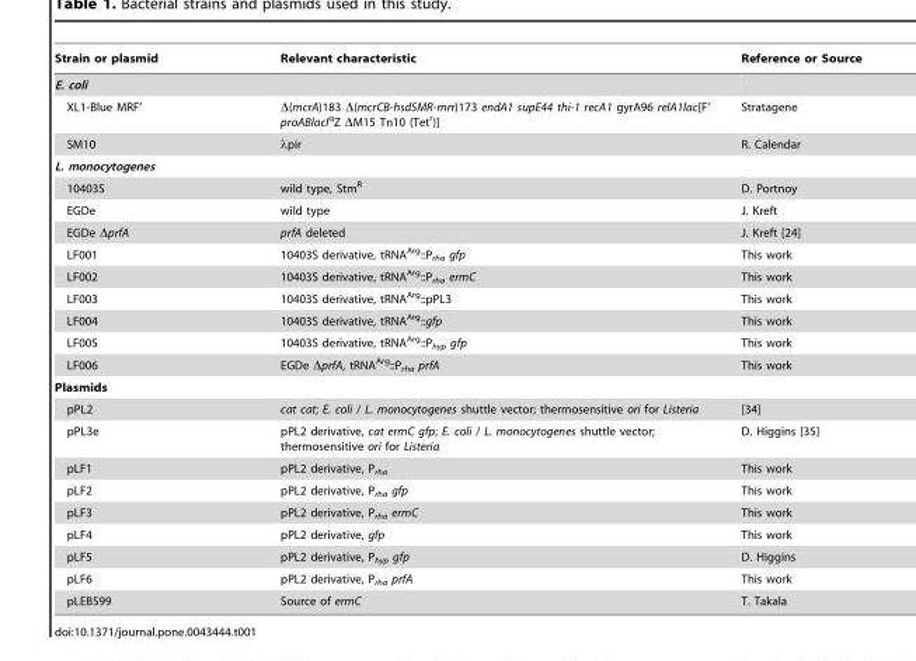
<table><thead><tr><td>Strain or plasmid</td><td>Relevant characteristic</td><td>Reference or Source</td></tr></thead><tbody><tr><td colspan="3">E. coli</td></tr><tr><td>XL1-Blue MRF’</td><td>Δ(mcrA)183 Δ(mcrCB-hsdSMR-mrr)173 endA1 supE44 thi-1 recA1 gyrA96 relA1lac[F′ proABlacI<sup>q</sup>Z ΔM15 Tn10 (Tet<sup>r</sup>)]</td><td>Stratagene</td></tr><tr><td>SM10</td><td>λpir</td><td>R. Calendar</td></tr><tr><td colspan="3">L. monocytogenes</td></tr><tr><td>10403S</td><td>wild type, Stm<sup>R</sup></td><td>D. Portnoy</td></tr><tr><td>EGDe</td><td>wild type</td><td>J. Kreft</td></tr><tr><td>EGDe ΔprfA</td><td>prfA deleted</td><td>J. Kreft [24]</td></tr><tr><td>LF001</td><td>10403S derivative, tRNA<sup>Arg</sup>::P<sub>rha</sub> gfp</td><td>This work</td></tr><tr><td>LF002</td><td>10403S derivative, tRNA<sup>Arg</sup>::P<sub>rha</sub> ermC</td><td>This work</td></tr><tr><td>LF003</td><td>10403S derivative, tRNA<sup>Arg</sup>::pPL3</td><td>This work</td></tr><tr><td>LF004</td><td>10403S derivative, tRNA<sup>Arg</sup>::gfp</td><td>This work</td></tr><tr><td>LF005</td><td>10403S derivative, tRNA<sup>Arg</sup>::P<sub>hyp</sub> gfp</td><td>This work</td></tr><tr><td>LF006</td><td>EGDe ΔprfA, tRNA<sup>Arg</sup>::P<sub>rha</sub> prfA</td><td>This work</td></tr><tr><td colspan="3">Plasmids</td></tr><tr><td>pPL2</td><td>cat cat; E. coli / L. monocytogenes shuttle vector; thermosensitive ori for Listeria</td><td>[34]</td></tr><tr><td>pPL3e</td><td>pPL2 derivative, cat ermC gfp; E. coli / L. monocytogenes shuttle vector; thermosensitive ori for Listeria</td><td>D. Higgins [35]</td></tr><tr><td>pLF1</td><td>pPL2 derivative, P<sub>rha</sub></td><td>This work</td></tr><tr><td>pLF2</td><td>pPL2 derivative, P<sub>rha</sub> gfp</td><td>This work</td></tr><tr><td>pLF3</td><td>pPL2 derivative, P<sub>rha</sub> ermC</td><td>This work</td></tr><tr><td>pLF4</td><td>pPL2 derivative, gfp</td><td>This work</td></tr><tr><td>pLF5</td><td>pPL2 derivative, P<sub>hyp</sub> gfp</td><td>D. Higgins</td></tr><tr><td>pLF6</td><td>pPL2 derivative, P<sub>rha</sub> prfA</td><td>This work</td></tr><tr><td>pLEB599</td><td>Source of ermC</td><td>T. Takala</td></tr></tbody></table>